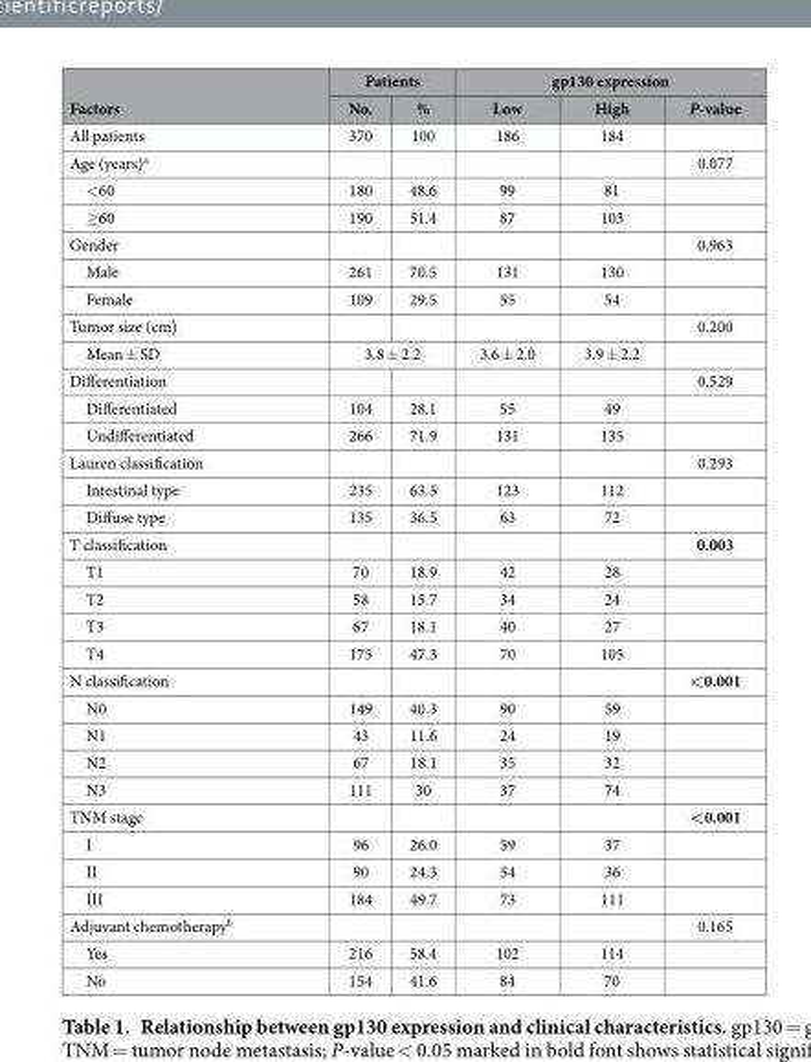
<table><thead><tr><td rowspan="2">Factors</td><td colspan="2">Patients</td><td colspan="3">gp130 expression</td></tr><tr><td>No.</td><td>%</td><td>Low</td><td>High</td><td>P-value</td></tr></thead><tbody><tr><td>All patients</td><td>370</td><td>100</td><td>186</td><td>184</td><td></td></tr><tr><td>Age (years)<sup>a</sup></td><td></td><td></td><td></td><td></td><td>0.077</td></tr><tr><td>&lt; 60</td><td>180</td><td>48.6</td><td>99</td><td>81</td><td></td></tr><tr><td>≥ 60</td><td>190</td><td>51.4</td><td>87</td><td>103</td><td></td></tr><tr><td>Gender</td><td></td><td></td><td></td><td></td><td>0.963</td></tr><tr><td>Male</td><td>261</td><td>70.5</td><td>131</td><td>130</td><td></td></tr><tr><td>Female</td><td>109</td><td>29.5</td><td>55</td><td>54</td><td></td></tr><tr><td>Tumor size (cm)</td><td></td><td></td><td></td><td></td><td>0.200</td></tr><tr><td>Mean ± SD</td><td colspan="2">3.8 ± 2.2</td><td>3.6 ± 2.0</td><td>3.9 ± 2.2</td><td></td></tr><tr><td>Differentiation</td><td></td><td></td><td></td><td></td><td>0.529</td></tr><tr><td>Differentiated</td><td>104</td><td>28.1</td><td>55</td><td>49</td><td></td></tr><tr><td>Undifferentiated</td><td>266</td><td>71.9</td><td>131</td><td>135</td><td></td></tr><tr><td>Lauren classification</td><td></td><td></td><td></td><td></td><td>0.293</td></tr><tr><td>Intestinal type</td><td>235</td><td>63.5</td><td>123</td><td>112</td><td></td></tr><tr><td>Diffuse type</td><td>135</td><td>36.5</td><td>63</td><td>72</td><td></td></tr><tr><td>T classification</td><td></td><td></td><td></td><td></td><td>0.003</td></tr><tr><td>T1</td><td>70</td><td>18.9</td><td>42</td><td>28</td><td></td></tr><tr><td>T2</td><td>58</td><td>15.7</td><td>34</td><td>24</td><td></td></tr><tr><td>T3</td><td>67</td><td>18.1</td><td>40</td><td>27</td><td></td></tr><tr><td>T4</td><td>175</td><td>47.3</td><td>70</td><td>105</td><td></td></tr><tr><td>N classification</td><td></td><td></td><td></td><td></td><td>&lt;0.001</td></tr><tr><td>N0</td><td>149</td><td>40.3</td><td>90</td><td>59</td><td></td></tr><tr><td>N1</td><td>43</td><td>11.6</td><td>24</td><td>19</td><td></td></tr><tr><td>N2</td><td>67</td><td>18.1</td><td>35</td><td>32</td><td></td></tr><tr><td>N3</td><td>111</td><td>30</td><td>37</td><td>74</td><td></td></tr><tr><td>TNM stage</td><td></td><td></td><td></td><td></td><td>&lt;0.001</td></tr><tr><td>I</td><td>96</td><td>26.0</td><td>59</td><td>37</td><td></td></tr><tr><td>II</td><td>90</td><td>24.3</td><td>54</td><td>36</td><td></td></tr><tr><td>III</td><td>184</td><td>49.7</td><td>73</td><td>111</td><td></td></tr><tr><td>Adjuvant chemotherapy<sup>b</sup></td><td></td><td></td><td></td><td></td><td>0.165</td></tr><tr><td>Yes</td><td>216</td><td>58.4</td><td>102</td><td>114</td><td></td></tr><tr><td>No</td><td>154</td><td>41.6</td><td>84</td><td>70</td><td></td></tr></tbody></table>